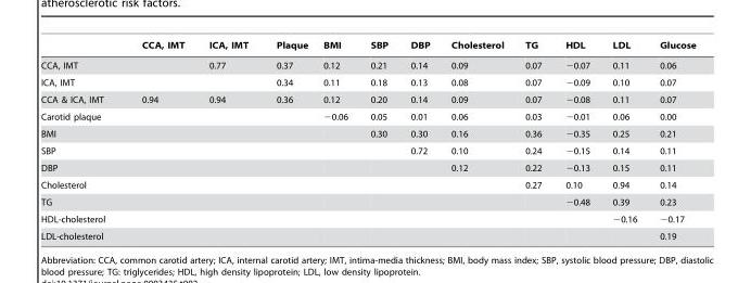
<table><thead><tr><td></td><td>CCA, IMT</td><td>ICA, IMT</td><td>Plaque</td><td>BMI</td><td>SBP</td><td>DBP</td><td>Cholesterol</td><td>TG</td><td>HDL</td><td>LDL</td><td>Glucose</td></tr></thead><tbody><tr><td>CCA, IMT</td><td></td><td>0.77</td><td>0.37</td><td>0.12</td><td>0.21</td><td>0.14</td><td>0.09</td><td>0.07</td><td>−0.07</td><td>0.11</td><td>0.06</td></tr><tr><td>ICA, IMT</td><td></td><td></td><td>0.34</td><td>0.11</td><td>0.18</td><td>0.13</td><td>0.08</td><td>0.07</td><td>−0.09</td><td>0.10</td><td>0.07</td></tr><tr><td>CCA &amp; ICA, IMT</td><td>0.94</td><td>0.94</td><td>0.36</td><td>0.12</td><td>0.20</td><td>0.14</td><td>0.09</td><td>0.07</td><td>−0.08</td><td>0.11</td><td>0.07</td></tr><tr><td>Carotid plaque</td><td></td><td></td><td></td><td>−0.06</td><td>0.05</td><td>0.01</td><td>0.06</td><td>0.03</td><td>−0.01</td><td>0.06</td><td>0.00</td></tr><tr><td>BMI</td><td></td><td></td><td></td><td></td><td>0.30</td><td>0.30</td><td>0.16</td><td>0.36</td><td>−0.35</td><td>0.25</td><td>0.21</td></tr><tr><td>SBP</td><td></td><td></td><td></td><td></td><td></td><td>0.72</td><td>0.10</td><td>0.24</td><td>−0.15</td><td>0.14</td><td>0.11</td></tr><tr><td>DBP</td><td></td><td></td><td></td><td></td><td></td><td></td><td>0.12</td><td>0.22</td><td>−0.13</td><td>0.15</td><td>0.11</td></tr><tr><td>Cholesterol</td><td></td><td></td><td></td><td></td><td></td><td></td><td></td><td>0.27</td><td>0.10</td><td>0.94</td><td>0.14</td></tr><tr><td>TG</td><td></td><td></td><td></td><td></td><td></td><td></td><td></td><td></td><td>−0.48</td><td>0.39</td><td>0.23</td></tr><tr><td>HDL-cholesterol</td><td></td><td></td><td></td><td></td><td></td><td></td><td></td><td></td><td></td><td>−0.16</td><td>−0.17</td></tr><tr><td>LDL-cholesterol</td><td></td><td></td><td></td><td></td><td></td><td></td><td></td><td></td><td></td><td></td><td>0.19</td></tr></tbody></table>